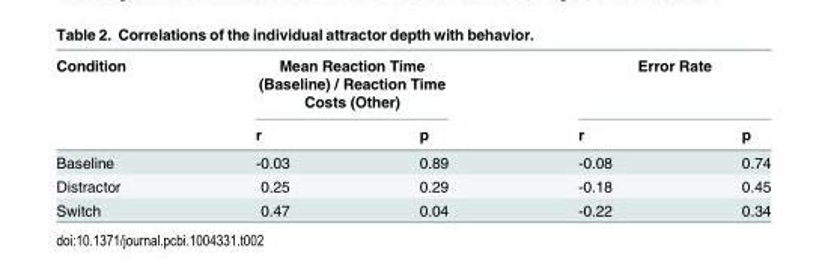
<table><thead><tr><td rowspan="2">Condition</td><td colspan="2">Mean Reaction Time (Baseline) / Reaction Time Costs (Other)</td><td colspan="2">Error Rate</td></tr><tr><td>r</td><td>p</td><td>r</td><td>p</td></tr></thead><tbody><tr><td>Baseline</td><td>-0.03</td><td>0.89</td><td>-0.08</td><td>0.74</td></tr><tr><td>Distractor</td><td>0.25</td><td>0.29</td><td>-0.18</td><td>0.45</td></tr><tr><td>Switch</td><td>0.47</td><td>0.04</td><td>-0.22</td><td>0.34</td></tr></tbody></table>